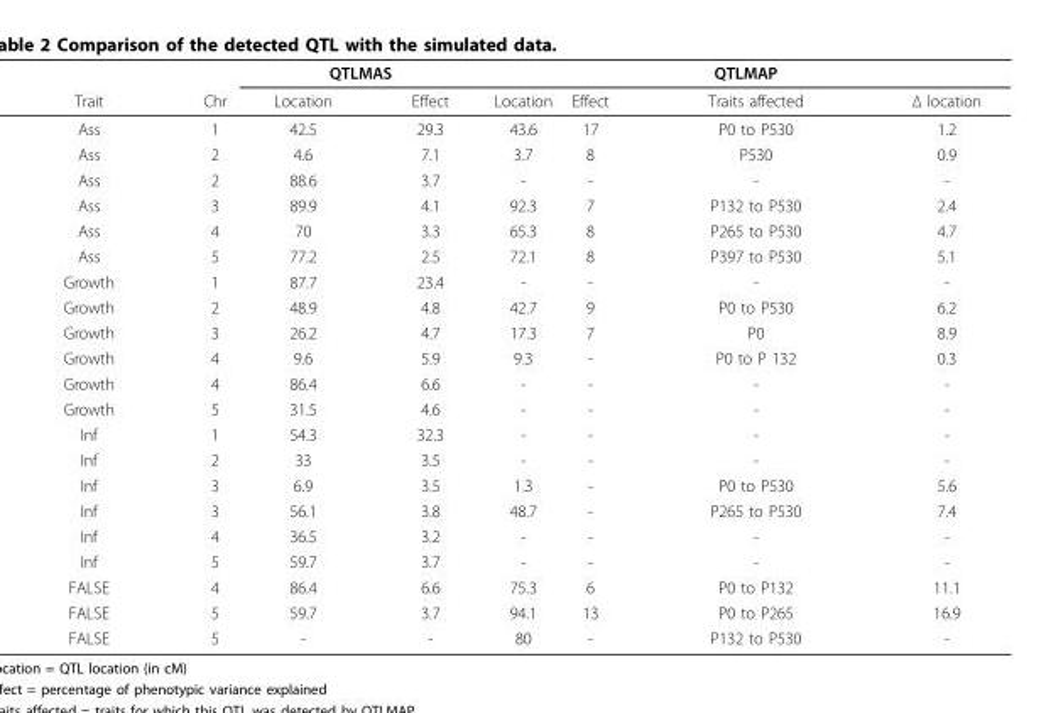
<table><thead><tr><td rowspan="2">Trait</td><td rowspan="2">Chr</td><td colspan="2">QTLMAS</td><td colspan="4">QTLMAP</td></tr><tr><td>Location</td><td>Effect</td><td>Location</td><td>Effect</td><td>Traits affected</td><td>Δ location</td></tr></thead><tbody><tr><td>Ass</td><td>1</td><td>42.5</td><td>29.3</td><td>43.6</td><td>17</td><td>P0 to P530</td><td>1.2</td></tr><tr><td>Ass</td><td>2</td><td>4.6</td><td>7.1</td><td>3.7</td><td>8</td><td>P530</td><td>0.9</td></tr><tr><td>Ass</td><td>2</td><td>88.6</td><td>3.7</td><td>-</td><td>-</td><td>-</td><td>-</td></tr><tr><td>Ass</td><td>3</td><td>89.9</td><td>4.1</td><td>92.3</td><td>7</td><td>P132 to P530</td><td>2.4</td></tr><tr><td>Ass</td><td>4</td><td>70</td><td>3.3</td><td>65.3</td><td>8</td><td>P265 to P530</td><td>4.7</td></tr><tr><td>Ass</td><td>5</td><td>77.2</td><td>2.5</td><td>72.1</td><td>8</td><td>P397 to P530</td><td>5.1</td></tr><tr><td>Growth</td><td>1</td><td>87.7</td><td>23.4</td><td>-</td><td>-</td><td>-</td><td>-</td></tr><tr><td>Growth</td><td>2</td><td>48.9</td><td>4.8</td><td>42.7</td><td>9</td><td>P0 to P530</td><td>6.2</td></tr><tr><td>Growth</td><td>3</td><td>26.2</td><td>4.7</td><td>17.3</td><td>7</td><td>P0</td><td>8.9</td></tr><tr><td>Growth</td><td>4</td><td>9.6</td><td>5.9</td><td>9.3</td><td>-</td><td>P0 to P 132</td><td>0.3</td></tr><tr><td>Growth</td><td>4</td><td>86.4</td><td>6.6</td><td>-</td><td>-</td><td>-</td><td>-</td></tr><tr><td>Growth</td><td>5</td><td>31.5</td><td>4.6</td><td>-</td><td>-</td><td>-</td><td>-</td></tr><tr><td>Inf</td><td>1</td><td>54.3</td><td>32.3</td><td>-</td><td>-</td><td>-</td><td>-</td></tr><tr><td>Inf</td><td>2</td><td>33</td><td>3.5</td><td>-</td><td>-</td><td>-</td><td>-</td></tr><tr><td>Inf</td><td>3</td><td>6.9</td><td>3.5</td><td>1.3</td><td>-</td><td>P0 to P530</td><td>5.6</td></tr><tr><td>Inf</td><td>3</td><td>56.1</td><td>3.8</td><td>48.7</td><td>-</td><td>P265 to P530</td><td>7.4</td></tr><tr><td>Inf</td><td>4</td><td>36.5</td><td>3.2</td><td>-</td><td>-</td><td>-</td><td>-</td></tr><tr><td>Inf</td><td>5</td><td>59.7</td><td>3.7</td><td>-</td><td>-</td><td>-</td><td>-</td></tr><tr><td>FALSE</td><td>4</td><td>86.4</td><td>6.6</td><td>75.3</td><td>6</td><td>P0 to P132</td><td>11.1</td></tr><tr><td>FALSE</td><td>5</td><td>59.7</td><td>3.7</td><td>94.1</td><td>13</td><td>P0 to P265</td><td>16.9</td></tr><tr><td>FALSE</td><td>5</td><td>-</td><td>-</td><td>80</td><td>-</td><td>P132 to P530</td><td>-</td></tr></tbody></table>